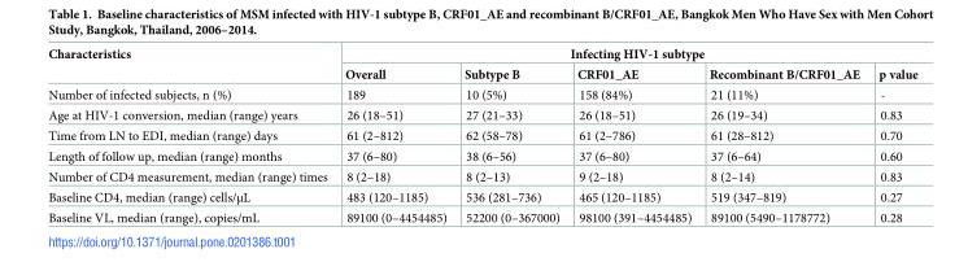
<table><thead><tr><td rowspan="2">Characteristics</td><td colspan="5">Infecting HIV-1 subtype</td></tr><tr><td>Overall</td><td>Subtype B</td><td>CRF01_AE</td><td>Recombinant B/CRF01_AE</td><td>p value</td></tr></thead><tbody><tr><td>Number of infected subjects, n (%)</td><td>189</td><td>10 (5%)</td><td>158 (84%)</td><td>21 (11%)</td><td>-</td></tr><tr><td>Age at HIV-1 conversion, median (range) years</td><td>26 (18–51)</td><td>27 (21–33)</td><td>26 (18–51)</td><td>26 (19–34)</td><td>0.83</td></tr><tr><td>Time from LN to EDI, median (range) days</td><td>61 (2–812)</td><td>62 (58–78)</td><td>61 (2–786)</td><td>61 (28–812)</td><td>0.70</td></tr><tr><td>Length of follow up, median (range) months</td><td>37 (6–80)</td><td>38 (6–56)</td><td>37 (6–80)</td><td>37 (6–64)</td><td>0.60</td></tr><tr><td>Number of CD4 measurement, median (range) times</td><td>8 (2–18)</td><td>8 (2–13)</td><td>9 (2–18)</td><td>8 (2–14)</td><td>0.83</td></tr><tr><td>Baseline CD4, median (range) cells/μL</td><td>483 (120–1185)</td><td>536 (281–736)</td><td>465 (120–1185)</td><td>519 (347–819)</td><td>0.27</td></tr><tr><td>Baseline VL, median (range), copies/mL</td><td>89100 (0–4454485)</td><td>52200 (0–367000)</td><td>98100 (391–4454485)</td><td>89100 (5490–1178772)</td><td>0.28</td></tr></tbody></table>